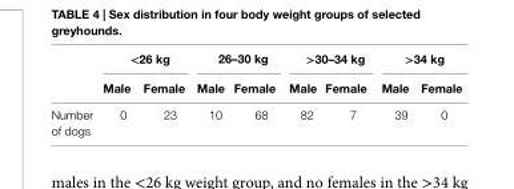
<table><thead><tr><td rowspan="2"></td><td colspan="2">&lt;26 kg</td><td colspan="2">26–30 kg</td><td colspan="2">&gt;30–34 kg</td><td colspan="2">&gt;34 kg</td></tr><tr><td>Male</td><td>Female</td><td>Male</td><td>Female</td><td>Male</td><td>Female</td><td>Male</td><td>Female</td></tr></thead><tbody><tr><td>Number of dogs</td><td>0</td><td>23</td><td>10</td><td>68</td><td>82</td><td>7</td><td>39</td><td>0</td></tr></tbody></table>